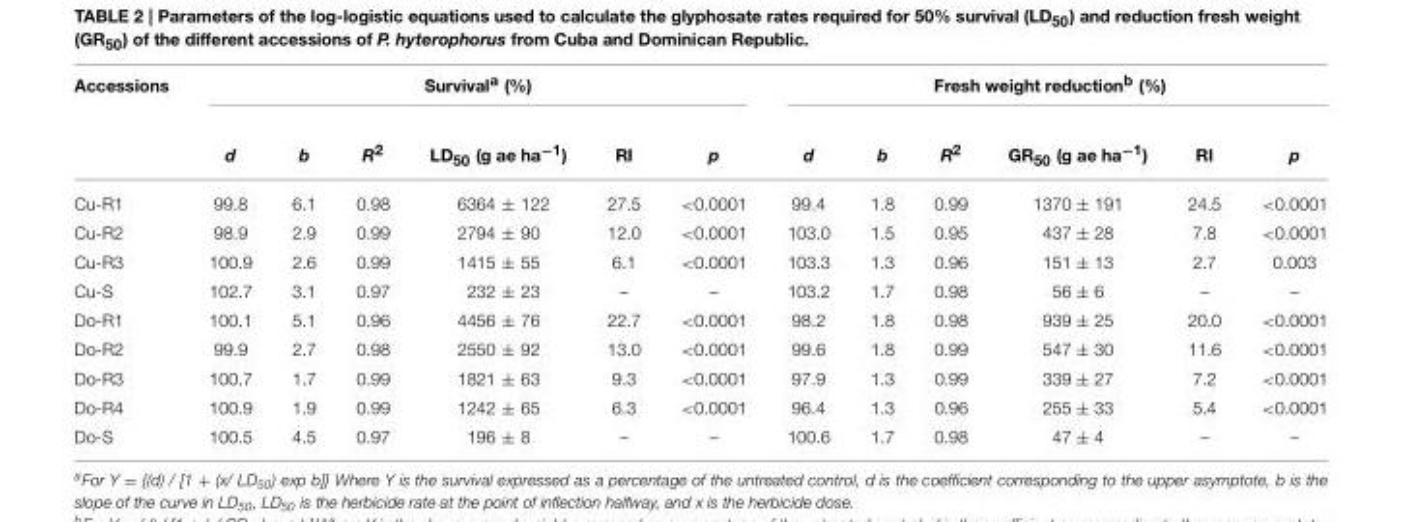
<table><thead><tr><td rowspan="2">Accessions</td><td colspan="6">Survival<sup>a</sup> (%)</td><td colspan="6">Fresh weight reduction<sup>b</sup> (%)</td></tr><tr><td>d</td><td>b</td><td>R<sup>2</sup></td><td>LD<sub>50</sub> (g ae ha<sup>−1</sup>)</td><td>RI</td><td>p</td><td>d</td><td>b</td><td>R<sup>2</sup></td><td>GR<sub>50</sub> (g ae ha<sup>−1</sup>)</td><td>RI</td><td>p</td></tr></thead><tbody><tr><td>Cu-R1</td><td>99.8</td><td>6.1</td><td>0.98</td><td>6364 ± 122</td><td>27.5</td><td>&lt;0.0001</td><td>99.4</td><td>1.8</td><td>0.99</td><td>1370 ± 191</td><td>24.5</td><td>&lt;0.0001</td></tr><tr><td>Cu-R2</td><td>98.9</td><td>2.9</td><td>0.99</td><td>2794 ± 90</td><td>12.0</td><td>&lt;0.0001</td><td>103.0</td><td>1.5</td><td>0.95</td><td>437 ± 28</td><td>7.8</td><td>&lt;0.0001</td></tr><tr><td>Cu-R3</td><td>100.9</td><td>2.6</td><td>0.99</td><td>1415 ± 55</td><td>6.1</td><td>&lt;0.0001</td><td>103.3</td><td>1.3</td><td>0.96</td><td>151 ± 13</td><td>2.7</td><td>0.003</td></tr><tr><td>Cu-S</td><td>102.7</td><td>3.1</td><td>0.97</td><td>232 ± 23</td><td>–</td><td>–</td><td>103.2</td><td>1.7</td><td>0.98</td><td>56 ± 6</td><td>–</td><td>–</td></tr><tr><td>Do-R1</td><td>100.1</td><td>5.1</td><td>0.96</td><td>4456 ± 76</td><td>22.7</td><td>&lt;0.0001</td><td>98.2</td><td>1.8</td><td>0.98</td><td>939 ± 25</td><td>20.0</td><td>&lt;0.0001</td></tr><tr><td>Do-R2</td><td>99.9</td><td>2.7</td><td>0.98</td><td>2550 ± 92</td><td>13.0</td><td>&lt;0.0001</td><td>99.6</td><td>1.8</td><td>0.99</td><td>547 ± 30</td><td>11.6</td><td>&lt;0.0001</td></tr><tr><td>Do-R3</td><td>100.7</td><td>1.7</td><td>0.99</td><td>1821 ± 63</td><td>9.3</td><td>&lt;0.0001</td><td>97.9</td><td>1.3</td><td>0.99</td><td>339 ± 27</td><td>7.2</td><td>&lt;0.0001</td></tr><tr><td>Do-R4</td><td>100.9</td><td>1.9</td><td>0.99</td><td>1242 ± 65</td><td>6.3</td><td>&lt;0.0001</td><td>96.4</td><td>1.3</td><td>0.96</td><td>255 ± 33</td><td>5.4</td><td>&lt;0.0001</td></tr><tr><td>Do-S</td><td>100.5</td><td>4.5</td><td>0.97</td><td>196 ± 8</td><td>–</td><td>–</td><td>100.6</td><td>1.7</td><td>0.98</td><td>47 ± 4</td><td>–</td><td>–</td></tr></tbody></table>